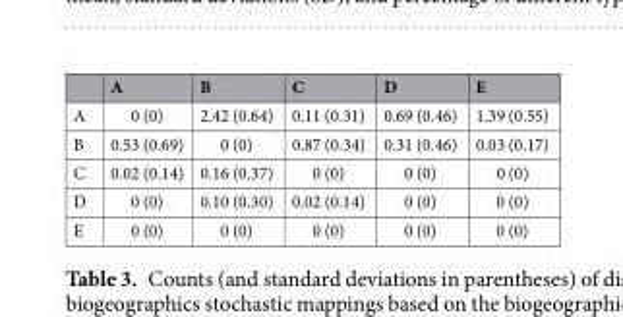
<table><thead><tr><td></td><td>A</td><td>B</td><td>C</td><td>D</td><td>E</td></tr></thead><tbody><tr><td>A</td><td>0 (0)</td><td>2.42 (0.64)</td><td>0.11 (0.31)</td><td>0.69 (0.46)</td><td>1.39 (0.55)</td></tr><tr><td>B</td><td>0.53 (0.69)</td><td>0 (0)</td><td>0.87 (0.34)</td><td>0.31 (0.46)</td><td>0.03 (0.17)</td></tr><tr><td>C</td><td>0.02 (0.14)</td><td>0.16 (0.37)</td><td>0 (0)</td><td>0 (0)</td><td>0 (0)</td></tr><tr><td>D</td><td>0 (0)</td><td>0.10 (0.30)</td><td>0.02 (0.14)</td><td>0 (0)</td><td>0 (0)</td></tr><tr><td>E</td><td>0 (0)</td><td>0 (0)</td><td>0 (0)</td><td>0 (0)</td><td>0 (0)</td></tr></tbody></table>